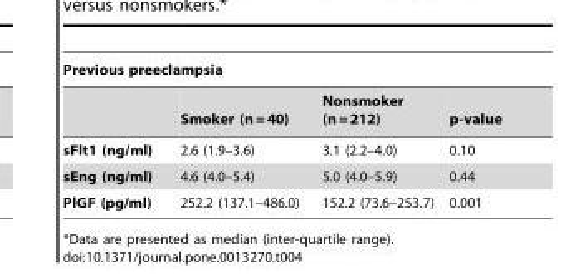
<table><thead><tr><td colspan="4">Previous preeclampsia</td></tr><tr><td></td><td>Smoker (n = 40)</td><td>Nonsmoker (n = 212)</td><td>p-value</td></tr></thead><tbody><tr><td>sFlt1 (ng/ml)</td><td>2.6 (1.9–3.6)</td><td>3.1 (2.2–4.0)</td><td>0.10</td></tr><tr><td>sEng (ng/ml)</td><td>4.6 (4.0–5.4)</td><td>5.0 (4.0–5.9)</td><td>0.44</td></tr><tr><td>PlGF (pg/ml)</td><td>252.2 (137.1–486.0)</td><td>152.2 (73.6–253.7)</td><td>0.001</td></tr></tbody></table>